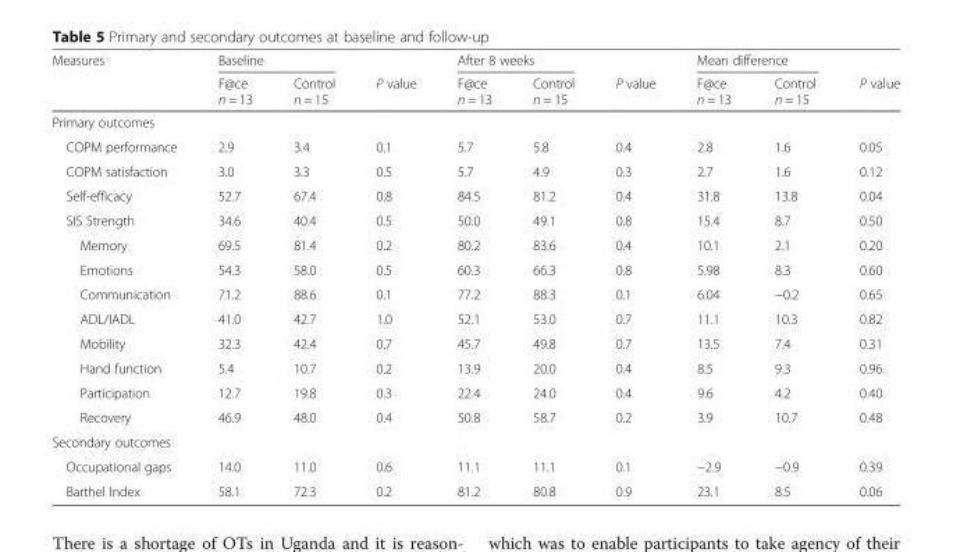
<table><thead><tr><td rowspan="2">Measures</td><td colspan="2">Baseline</td><td rowspan="2">P value</td><td colspan="2">After 8 weeks</td><td rowspan="2">P value</td><td colspan="2">Mean difference</td><td rowspan="2">P value</td></tr><tr><td>F@ce n = 13</td><td>Control n = 15</td><td>F@ce n = 13</td><td>Control n = 15</td><td>F@ce n = 13</td><td>Control n = 15</td></tr></thead><tbody><tr><td colspan="10">Primary outcomes</td></tr><tr><td>COPM performance</td><td>2.9</td><td>3.4</td><td>0.1</td><td>5.7</td><td>5.8</td><td>0.4</td><td>2.8</td><td>1.6</td><td>0.05</td></tr><tr><td>COPM satisfaction</td><td>3.0</td><td>3.3</td><td>0.5</td><td>5.7</td><td>4.9</td><td>0.3</td><td>2.7</td><td>1.6</td><td>0.12</td></tr><tr><td>Self-efficacy</td><td>52.7</td><td>67.4</td><td>0.8</td><td>84.5</td><td>81.2</td><td>0.4</td><td>31.8</td><td>13.8</td><td>0.04</td></tr><tr><td>SIS Strength</td><td>34.6</td><td>40.4</td><td>0.5</td><td>50.0</td><td>49.1</td><td>0.8</td><td>15.4</td><td>8.7</td><td>0.50</td></tr><tr><td>Memory</td><td>69.5</td><td>81.4</td><td>0.2</td><td>80.2</td><td>83.6</td><td>0.4</td><td>10.1</td><td>2.1</td><td>0.20</td></tr><tr><td>Emotions</td><td>54.3</td><td>58.0</td><td>0.5</td><td>60.3</td><td>66.3</td><td>0.8</td><td>5.98</td><td>8.3</td><td>0.60</td></tr><tr><td>Communication</td><td>71.2</td><td>88.6</td><td>0.1</td><td>77.2</td><td>88.3</td><td>0.1</td><td>6.04</td><td>−0.2</td><td>0.65</td></tr><tr><td>ADL/IADL</td><td>41.0</td><td>42.7</td><td>1.0</td><td>52.1</td><td>53.0</td><td>0.7</td><td>11.1</td><td>10.3</td><td>0.82</td></tr><tr><td>Mobility</td><td>32.3</td><td>42.4</td><td>0.7</td><td>45.7</td><td>49.8</td><td>0.7</td><td>13.5</td><td>7.4</td><td>0.31</td></tr><tr><td>Hand function</td><td>5.4</td><td>10.7</td><td>0.2</td><td>13.9</td><td>20.0</td><td>0.4</td><td>8.5</td><td>9.3</td><td>0.96</td></tr><tr><td>Participation</td><td>12.7</td><td>19.8</td><td>0.3</td><td>22.4</td><td>24.0</td><td>0.4</td><td>9.6</td><td>4.2</td><td>0.40</td></tr><tr><td>Recovery</td><td>46.9</td><td>48.0</td><td>0.4</td><td>50.8</td><td>58.7</td><td>0.2</td><td>3.9</td><td>10.7</td><td>0.48</td></tr><tr><td colspan="10">Secondary outcomes</td></tr><tr><td>Occupational gaps</td><td>14.0</td><td>11.0</td><td>0.6</td><td>11.1</td><td>11.1</td><td>0.1</td><td>−2.9</td><td>−0.9</td><td>0.39</td></tr><tr><td>Barthel Index</td><td>58.1</td><td>72.3</td><td>0.2</td><td>81.2</td><td>80.8</td><td>0.9</td><td>23.1</td><td>8.5</td><td>0.06</td></tr></tbody></table>